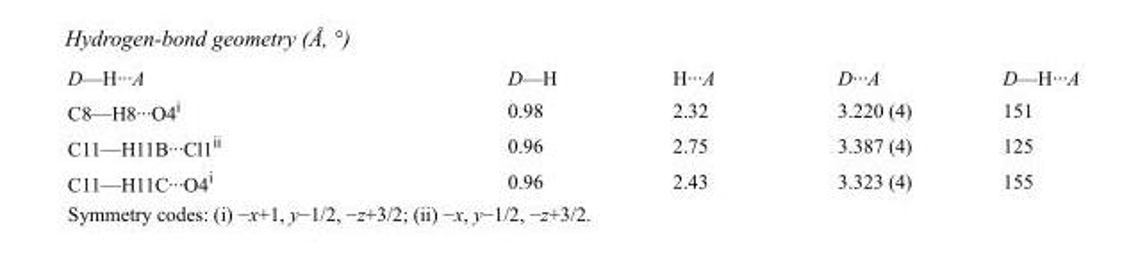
<table><tbody><tr><td>D—H···A</td><td>D—H</td><td>H···A</td><td>D···A</td><td>D—H···A</td></tr><tr><td>C8—H8···O4<sup>i</sup></td><td>0.98</td><td>2.32</td><td>3.220 (4)</td><td>151</td></tr><tr><td>C11—H11B···Cl1<sup>ii</sup></td><td>0.96</td><td>2.75</td><td>3.387 (4)</td><td>125</td></tr><tr><td>C11—H11C···O4<sup>i</sup></td><td>0.96</td><td>2.43</td><td>3.323 (4)</td><td>155</td></tr></tbody></table>